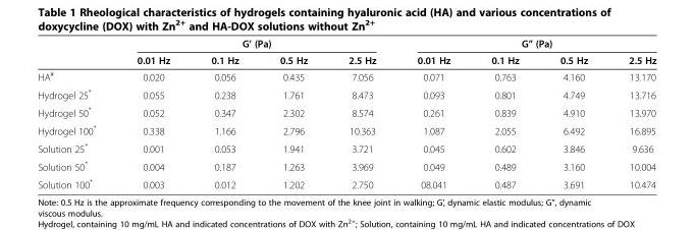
<table><thead><tr><td rowspan="2"></td><td colspan="4">G’ (Pa)</td><td colspan="4">G” (Pa)</td></tr><tr><td>0.01 Hz</td><td>0.1 Hz</td><td>0.5 Hz</td><td>2.5 Hz</td><td>0.01 Hz</td><td>0.1 Hz</td><td>0.5 Hz</td><td>2.5 Hz</td></tr></thead><tbody><tr><td>HA<sup>#</sup></td><td>0.020</td><td>0.056</td><td>0.435</td><td>7.056</td><td>0.071</td><td>0.763</td><td>4.160</td><td>13.170</td></tr><tr><td>Hydrogel 25*</td><td>0.055</td><td>0.238</td><td>1.761</td><td>8.473</td><td>0.093</td><td>0.801</td><td>4.749</td><td>13.716</td></tr><tr><td>Hydrogel 50*</td><td>0.052</td><td>0.347</td><td>2.302</td><td>8.574</td><td>0.261</td><td>0.839</td><td>4.910</td><td>13.970</td></tr><tr><td>Hydrogel 100*</td><td>0.338</td><td>1.166</td><td>2.796</td><td>10.363</td><td>1.087</td><td>2.055</td><td>6.492</td><td>16.895</td></tr><tr><td>Solution 25*</td><td>0.001</td><td>0.053</td><td>1.941</td><td>3.721</td><td>0.045</td><td>0.602</td><td>3.846</td><td>9.636</td></tr><tr><td>Solution 50*</td><td>0.004</td><td>0.187</td><td>1.263</td><td>3.969</td><td>0.049</td><td>0.489</td><td>3.160</td><td>10.004</td></tr><tr><td>Solution 100*</td><td>0.003</td><td>0.012</td><td>1.202</td><td>2.750</td><td>08.041</td><td>0.487</td><td>3.691</td><td>10.474</td></tr></tbody></table>